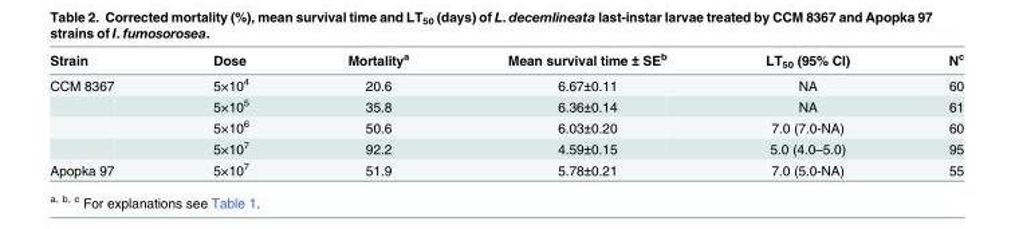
<table><thead><tr><td>Strain</td><td>Dose</td><td>Mortality<sup>a</sup></td><td>Mean survival time ± SE<sup>b</sup></td><td>LT<sub>50</sub> (95% CI)</td><td>N<sup>c</sup></td></tr></thead><tbody><tr><td rowspan="4">CCM 8367</td><td>5×10<sup>4</sup></td><td>20.6</td><td>6.67±0.11</td><td>NA</td><td>60</td></tr><tr><td>5×10<sup>5</sup></td><td>35.8</td><td>6.36±0.14</td><td>NA</td><td>61</td></tr><tr><td>5×10<sup>6</sup></td><td>50.6</td><td>6.03±0.20</td><td>7.0 (7.0-NA)</td><td>60</td></tr><tr><td>5×10<sup>7</sup></td><td>92.2</td><td>4.59±0.15</td><td>5.0 (4.0–5.0)</td><td>95</td></tr><tr><td>Apopka 97</td><td>5×10<sup>7</sup></td><td>51.9</td><td>5.78±0.21</td><td>7.0 (5.0-NA)</td><td>55</td></tr></tbody></table>